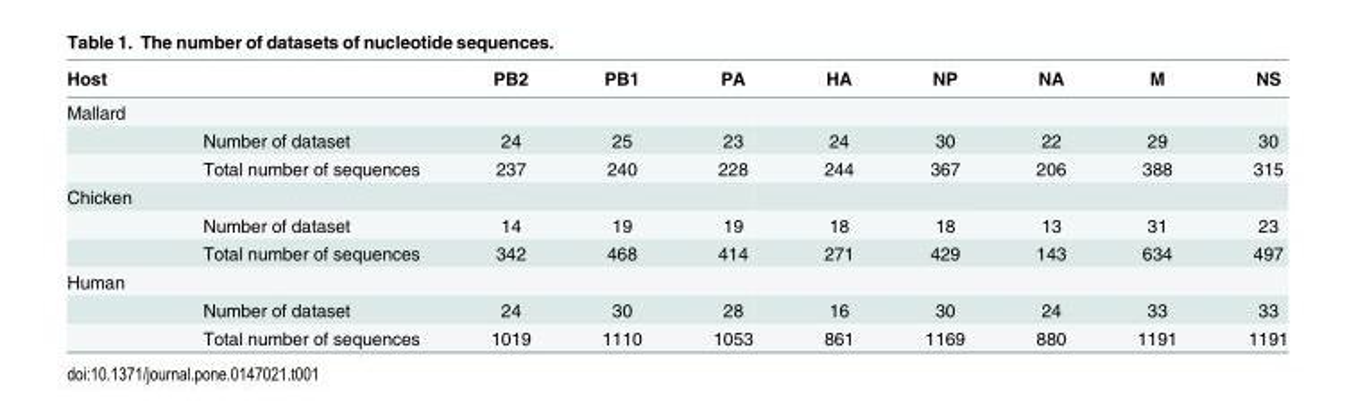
<table><thead><tr><td>Host</td><td></td><td>PB2</td><td>PB1</td><td>PA</td><td>HA</td><td>NP</td><td>NA</td><td>M</td><td>NS</td></tr></thead><tbody><tr><td colspan="10">Mallard</td></tr><tr><td></td><td>Number of dataset</td><td>24</td><td>25</td><td>23</td><td>24</td><td>30</td><td>22</td><td>29</td><td>30</td></tr><tr><td></td><td>Total number of sequences</td><td>237</td><td>240</td><td>228</td><td>244</td><td>367</td><td>206</td><td>388</td><td>315</td></tr><tr><td colspan="10">Chicken</td></tr><tr><td></td><td>Number of dataset</td><td>14</td><td>19</td><td>19</td><td>18</td><td>18</td><td>13</td><td>31</td><td>23</td></tr><tr><td></td><td>Total number of sequences</td><td>342</td><td>468</td><td>414</td><td>271</td><td>429</td><td>143</td><td>634</td><td>497</td></tr><tr><td colspan="10">Human</td></tr><tr><td></td><td>Number of dataset</td><td>24</td><td>30</td><td>28</td><td>16</td><td>30</td><td>24</td><td>33</td><td>33</td></tr><tr><td></td><td>Total number of sequences</td><td>1019</td><td>1110</td><td>1053</td><td>861</td><td>1169</td><td>880</td><td>1191</td><td>1191</td></tr></tbody></table>